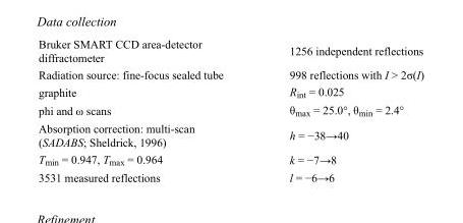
<table><tbody><tr><td>Bruker SMART CCD area-detector diffractometer</td><td>1256 independent reflections</td></tr><tr><td>Radiation source: fine-focus sealed tube</td><td>998 reflections with I &gt; 2σ(I)</td></tr><tr><td>graphite</td><td>R<sub>int</sub> = 0.025</td></tr><tr><td>phi and ω scans</td><td>θ<sub>max</sub> = 25.0°, θ<sub>min</sub> = 2.4°</td></tr><tr><td>Absorption correction: multi-scan (SADABS; Sheldrick, 1996)</td><td>h = −38→40</td></tr><tr><td>T<sub>min</sub> = 0.947, T<sub>max</sub> = 0.964</td><td>k = −7→8</td></tr><tr><td>3531 measured reflections</td><td>l = −6→6</td></tr></tbody></table>